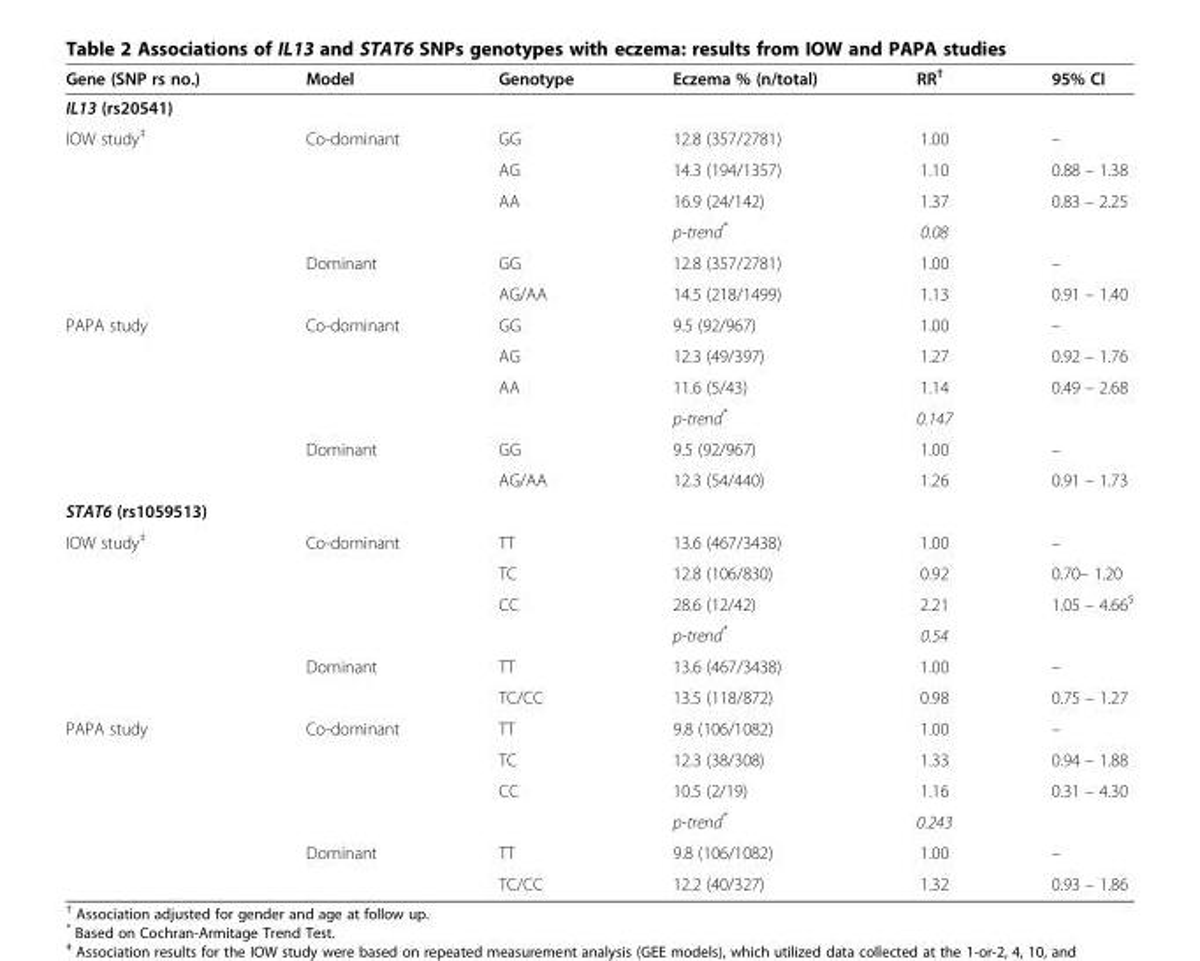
<table><thead><tr><td>Gene (SNP rs no.)</td><td>Model</td><td>Genotype</td><td>Eczema % (n/total)</td><td>RR<sup>†</sup></td><td>95% CI</td></tr></thead><tbody><tr><td colspan="6">IL13 (rs20541)</td></tr><tr><td rowspan="6">IOW study<sup>‡</sup></td><td>Co-dominant</td><td>GG</td><td>12.8 (357/2781)</td><td>1.00</td><td>–</td></tr><tr><td></td><td>AG</td><td>14.3 (194/1357)</td><td>1.10</td><td>0.88 – 1.38</td></tr><tr><td></td><td>AA</td><td>16.9 (24/142)</td><td>1.37</td><td>0.83 – 2.25</td></tr><tr><td></td><td></td><td>p-trend*</td><td>0.08</td><td></td></tr><tr><td>Dominant</td><td>GG</td><td>12.8 (357/2781)</td><td>1.00</td><td>–</td></tr><tr><td></td><td>AG/AA</td><td>14.5 (218/1499)</td><td>1.13</td><td>0.91 – 1.40</td></tr><tr><td rowspan="6">PAPA study</td><td>Co-dominant</td><td>GG</td><td>9.5 (92/967)</td><td>1.00</td><td>–</td></tr><tr><td></td><td>AG</td><td>12.3 (49/397)</td><td>1.27</td><td>0.92 – 1.76</td></tr><tr><td></td><td>AA</td><td>11.6 (5/43)</td><td>1.14</td><td>0.49 – 2.68</td></tr><tr><td></td><td></td><td>p-trend*</td><td>0.147</td><td></td></tr><tr><td>Dominant</td><td>GG</td><td>9.5 (92/967)</td><td>1.00</td><td>–</td></tr><tr><td></td><td>AG/AA</td><td>12.3 (54/440)</td><td>1.26</td><td>0.91 – 1.73</td></tr><tr><td colspan="6">STAT6 (rs1059513)</td></tr><tr><td rowspan="6">IOW study<sup>‡</sup></td><td>Co-dominant</td><td>TT</td><td>13.6 (467/3438)</td><td>1.00</td><td>–</td></tr><tr><td></td><td>TC</td><td>12.8 (106/830)</td><td>0.92</td><td>0.70– 1.20</td></tr><tr><td></td><td>CC</td><td>28.6 (12/42)</td><td>2.21</td><td>1.05 – 4.66<sup>$</sup></td></tr><tr><td></td><td></td><td>p-trend*</td><td>0.54</td><td></td></tr><tr><td>Dominant</td><td>TT</td><td>13.6 (467/3438)</td><td>1.00</td><td>–</td></tr><tr><td></td><td>TC/CC</td><td>13.5 (118/872)</td><td>0.98</td><td>0.75 – 1.27</td></tr><tr><td rowspan="6">PAPA study</td><td>Co-dominant</td><td>TT</td><td>9.8 (106/1082)</td><td>1.00</td><td>–</td></tr><tr><td></td><td>TC</td><td>12.3 (38/308)</td><td>1.33</td><td>0.94 – 1.88</td></tr><tr><td></td><td>CC</td><td>10.5 (2/19)</td><td>1.16</td><td>0.31 – 4.30</td></tr><tr><td></td><td></td><td>p-trend*</td><td>0.243</td><td></td></tr><tr><td>Dominant</td><td>TT</td><td>9.8 (106/1082)</td><td>1.00</td><td>–</td></tr><tr><td></td><td>TC/CC</td><td>12.2 (40/327)</td><td>1.32</td><td>0.93 – 1.86</td></tr></tbody></table>